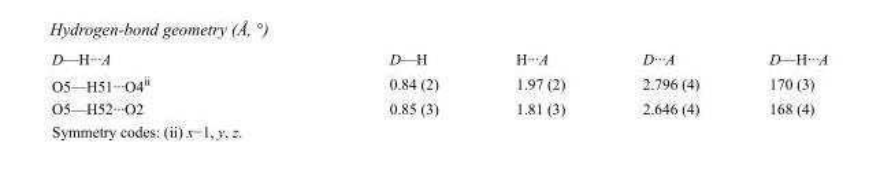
<table><tbody><tr><td>D—H···A</td><td>D—H</td><td>H···A</td><td>D···A</td><td>D—H···A</td></tr><tr><td>O5—H51···O4<sup>ii</sup></td><td>0.84 (2)</td><td>1.97 (2)</td><td>2.796 (4)</td><td>170 (3)</td></tr><tr><td>O5—H52···O2</td><td>0.85 (3)</td><td>1.81 (3)</td><td>2.646 (4)</td><td>168 (4)</td></tr></tbody></table>